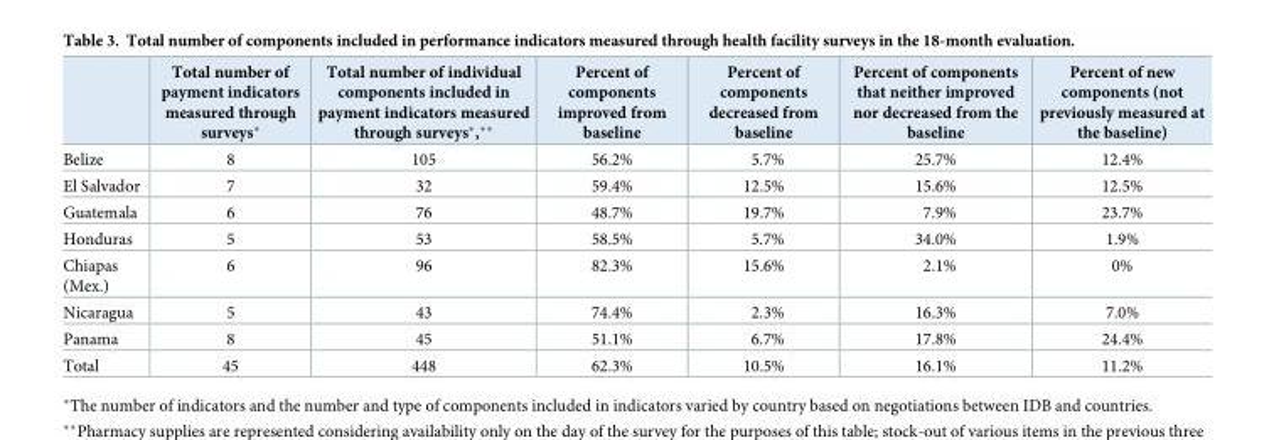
<table><thead><tr><td></td><td>Total number of payment indicators measured through surveys*</td><td>Total number of individual components included in payment indicators measured through surveys*,**</td><td>Percent of components improved from baseline</td><td>Percent of components decreased from baseline</td><td>Percent of components that neither improved nor decreased from the baseline</td><td>Percent of new components (not previously measured at the baseline)</td></tr></thead><tbody><tr><td>Belize</td><td>8</td><td>105</td><td>56.2%</td><td>5.7%</td><td>25.7%</td><td>12.4%</td></tr><tr><td>El Salvador</td><td>7</td><td>32</td><td>59.4%</td><td>12.5%</td><td>15.6%</td><td>12.5%</td></tr><tr><td>Guatemala</td><td>6</td><td>76</td><td>48.7%</td><td>19.7%</td><td>7.9%</td><td>23.7%</td></tr><tr><td>Honduras</td><td>5</td><td>53</td><td>58.5%</td><td>5.7%</td><td>34.0%</td><td>1.9%</td></tr><tr><td>Chiapas (Mex.)</td><td>6</td><td>96</td><td>82.3%</td><td>15.6%</td><td>2.1%</td><td>0%</td></tr><tr><td>Nicaragua</td><td>5</td><td>43</td><td>74.4%</td><td>2.3%</td><td>16.3%</td><td>7.0%</td></tr><tr><td>Panama</td><td>8</td><td>45</td><td>51.1%</td><td>6.7%</td><td>17.8%</td><td>24.4%</td></tr><tr><td>Total</td><td>45</td><td>448</td><td>62.3%</td><td>10.5%</td><td>16.1%</td><td>11.2%</td></tr></tbody></table>